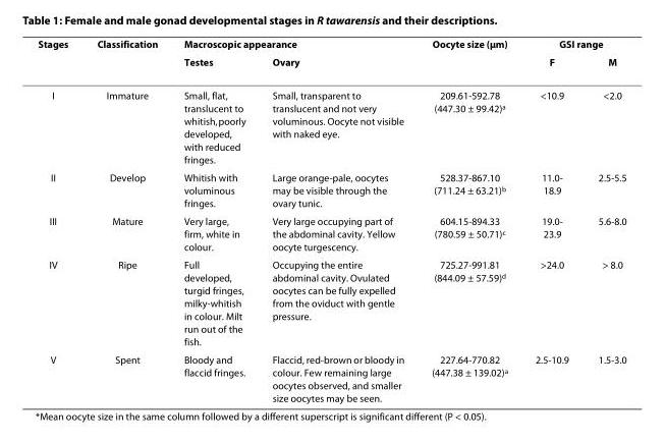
<table><thead><tr><td rowspan="2">Stages</td><td rowspan="2">Classification</td><td colspan="2">Macroscopic appearance</td><td rowspan="2">Oocyte size (μm)</td><td colspan="2">GSI range</td></tr><tr><td>Testes</td><td>Ovary</td><td>F</td><td>M</td></tr></thead><tbody><tr><td>I</td><td>Immature</td><td>Small, flat, translucent to whitish, poorly developed, with reduced fringes.</td><td>Small, transparent to translucent and not very voluminous. Oocyte not visible with naked eye.</td><td>209.61-592.78 (447.30 ± 99.42)<sup>a</sup></td><td>&lt;10.9</td><td>&lt;2.0</td></tr><tr><td>II</td><td>Develop</td><td>Whitish with voluminous fringes.</td><td>Large orange-pale, oocytes may be visible through the ovary tunic.</td><td>528.37-867.10 (711.24 ± 63.21)<sup>b</sup></td><td>11.0- 18.9</td><td>2.5-5.5</td></tr><tr><td>III</td><td>Mature</td><td>Very large, firm, white in colour.</td><td>Very large occupying part of the abdominal cavity. Yellow oocyte turgescency.</td><td>604.15-894.33 (780.59 ± 50.71)<sup>c</sup></td><td>19.0- 23.9</td><td>5.6-8.0</td></tr><tr><td>IV</td><td>Ripe</td><td>Full developed, turgid fringes, milky-whitish in colour. Milt run out of the fish.</td><td>Occupying the entire abdominal cavity. Ovulated oocytes can be fully expelled from the oviduct with gentle pressure.</td><td>725.27-991.81 (844.09 ± 57.59)<sup>d</sup></td><td>&gt;24.0</td><td>&gt; 8.0</td></tr><tr><td>V</td><td>Spent</td><td>Bloody and flaccid fringes.</td><td>Flaccid, red-brown or bloody in colour. Few remaining large oocytes observed, and smaller size oocytes may be seen.</td><td>227.64-770.82 (447.38 ± 139.02)<sup>a</sup></td><td>2.5-10.9</td><td>1.5-3.0</td></tr></tbody></table>